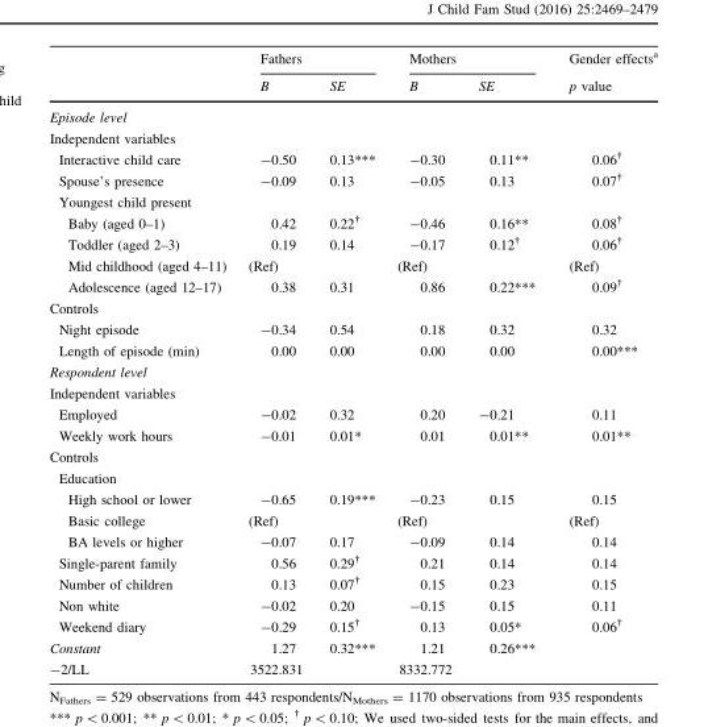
<table><thead><tr><td rowspan="2"></td><td colspan="2">Fathers</td><td colspan="2">Mothers</td><td rowspan="2">Gender effects<sup>a</sup> p value</td></tr><tr><td>B</td><td>SE</td><td>B</td><td>SE</td></tr></thead><tbody><tr><td colspan="6">Episode level</td></tr><tr><td colspan="6">Independent variables</td></tr><tr><td>Interactive child care</td><td>-0.50</td><td>0.13***</td><td>-0.30</td><td>0.11**</td><td>0.06<sup>†</sup></td></tr><tr><td>Spouse’s presence</td><td>-0.09</td><td>0.13</td><td>-0.05</td><td>0.13</td><td>0.07<sup>†</sup></td></tr><tr><td colspan="6">Youngest child present</td></tr><tr><td>Baby (aged 0–1)</td><td>0.42</td><td>0.22<sup>†</sup></td><td>-0.46</td><td>0.16**</td><td>0.08<sup>†</sup></td></tr><tr><td>Toddler (aged 2–3)</td><td>0.19</td><td>0.14</td><td>-0.17</td><td>0.12<sup>†</sup></td><td>0.06<sup>†</sup></td></tr><tr><td>Mid childhood (aged 4–11)</td><td colspan="2">(Ref)</td><td colspan="2">(Ref)</td><td>(Ref)</td></tr><tr><td>Adolescence (aged 12–17)</td><td>0.38</td><td>0.31</td><td>0.86</td><td>0.22***</td><td>0.09<sup>†</sup></td></tr><tr><td colspan="6">Controls</td></tr><tr><td>Night episode</td><td>-0.34</td><td>0.54</td><td>0.18</td><td>0.32</td><td>0.32</td></tr><tr><td>Length of episode (min)</td><td>0.00</td><td>0.00</td><td>0.00</td><td>0.00</td><td>0.00***</td></tr><tr><td colspan="6">Respondent level</td></tr><tr><td colspan="6">Independent variables</td></tr><tr><td>Employed</td><td>-0.02</td><td>0.32</td><td>0.20</td><td>-0.21</td><td>0.11</td></tr><tr><td>Weekly work hours</td><td>-0.01</td><td>0.01*</td><td>0.01</td><td>0.01**</td><td>0.01**</td></tr><tr><td colspan="6">Controls</td></tr><tr><td colspan="6">Education</td></tr><tr><td>High school or lower</td><td>-0.65</td><td>0.19***</td><td>-0.23</td><td>0.15</td><td>0.15</td></tr><tr><td>Basic college</td><td colspan="2">(Ref)</td><td colspan="2">(Ref)</td><td>(Ref)</td></tr><tr><td>BA levels or higher</td><td>-0.07</td><td>0.17</td><td>-0.09</td><td>0.14</td><td>0.14</td></tr><tr><td>Single-parent family</td><td>0.56</td><td>0.29<sup>†</sup></td><td>0.21</td><td>0.14</td><td>0.14</td></tr><tr><td>Number of children</td><td>0.13</td><td>0.07<sup>†</sup></td><td>0.15</td><td>0.23</td><td>0.15</td></tr><tr><td>Non white</td><td>-0.02</td><td>0.20</td><td>-0.15</td><td>0.15</td><td>0.11</td></tr><tr><td>Weekend diary</td><td>-0.29</td><td>0.15<sup>†</sup></td><td>0.13</td><td>0.05*</td><td>0.06<sup>†</sup></td></tr><tr><td>Constant</td><td>1.27</td><td>0.32***</td><td>1.21</td><td>0.26***</td><td></td></tr><tr><td>-2/LL</td><td colspan="2">3522.831</td><td colspan="2">8332.772</td><td></td></tr></tbody></table>